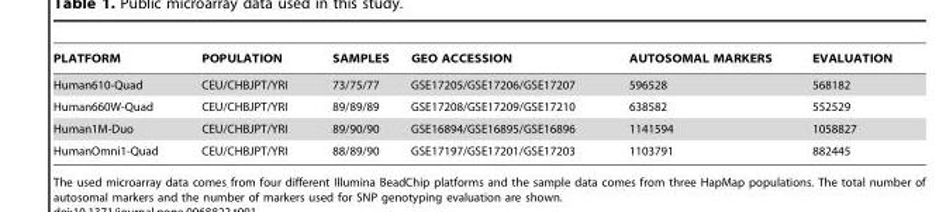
<table><thead><tr><td>PLATFORM</td><td>POPULATION</td><td>SAMPLES</td><td>GEO ACCESSION</td><td>AUTOSOMAL MARKERS</td><td>EVALUATION</td></tr></thead><tbody><tr><td>Human610-Quad</td><td>CEU/CHBJPT/YRI</td><td>73/75/77</td><td>GSE17205/GSE17206/GSE17207</td><td>596528</td><td>568182</td></tr><tr><td>Human660W-Quad</td><td>CEU/CHBJPT/YRI</td><td>89/89/89</td><td>GSE17208/GSE17209/GSE17210</td><td>638582</td><td>552529</td></tr><tr><td>Human1M-Duo</td><td>CEU/CHBJPT/YRI</td><td>89/90/90</td><td>GSE16894/GSE16895/GSE16896</td><td>1141594</td><td>1058827</td></tr><tr><td>HumanOmni1-Quad</td><td>CEU/CHBJPT/YRI</td><td>88/89/90</td><td>GSE17197/GSE17201/GSE17203</td><td>1103791</td><td>882445</td></tr></tbody></table>